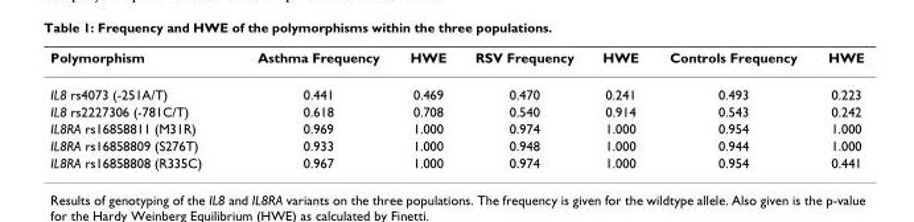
<table><thead><tr><td>Polymorphism</td><td>Asthma Frequency</td><td>HWE</td><td>RSV Frequency</td><td>HWE</td><td>Controls Frequency</td><td>HWE</td></tr></thead><tbody><tr><td>IL8 rs4073 (-251A/T)</td><td>0.441</td><td>0.469</td><td>0.470</td><td>0.241</td><td>0.493</td><td>0.223</td></tr><tr><td>IL8 rs2227306 (-781C/T)</td><td>0.618</td><td>0.708</td><td>0.540</td><td>0.914</td><td>0.543</td><td>0.242</td></tr><tr><td>IL8RA rs16858811 (M31R)</td><td>0.969</td><td>1.000</td><td>0.974</td><td>1.000</td><td>0.954</td><td>1.000</td></tr><tr><td>IL8RA rs16858809 (S276T)</td><td>0.933</td><td>1.000</td><td>0.948</td><td>1.000</td><td>0.944</td><td>1.000</td></tr><tr><td>IL8RA rs16858808 (R335C)</td><td>0.967</td><td>1.000</td><td>0.974</td><td>1.000</td><td>0.954</td><td>0.441</td></tr></tbody></table>